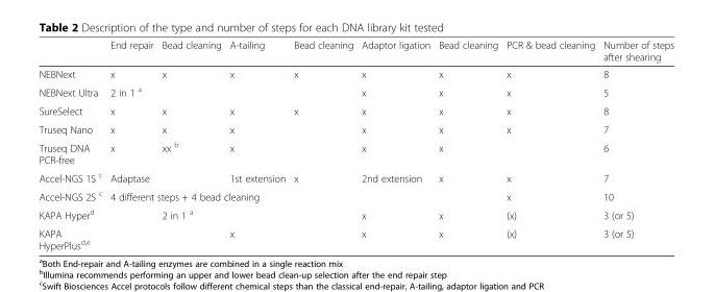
<table><thead><tr><td></td><td>End repair</td><td>Bead cleaning</td><td>A-tailing</td><td>Bead cleaning</td><td>Adaptor ligation</td><td>Bead cleaning</td><td>PCR &amp; bead cleaning</td><td>Number of steps after shearing</td></tr></thead><tbody><tr><td>NEBNext</td><td>x</td><td>x</td><td>x</td><td>x</td><td>x</td><td>x</td><td>x</td><td>8</td></tr><tr><td>NEBNext Ultra</td><td colspan="3">2 in 1 <sup>a</sup></td><td></td><td>x</td><td>x</td><td>x</td><td>5</td></tr><tr><td>SureSelect</td><td>x</td><td>x</td><td>x</td><td>x</td><td>x</td><td>x</td><td>x</td><td>8</td></tr><tr><td>Truseq Nano</td><td>x</td><td>x</td><td>x</td><td></td><td>x</td><td>x</td><td>x</td><td>7</td></tr><tr><td>Truseq DNA PCR-free</td><td>x</td><td>xx <sup>b</sup></td><td>x</td><td></td><td>x</td><td>x</td><td></td><td>6</td></tr><tr><td>Accel-NGS 1S <sup>c</sup></td><td>Adaptase</td><td></td><td>1st extension</td><td>x</td><td>2nd extension</td><td>x</td><td>x</td><td>7</td></tr><tr><td>Accel-NGS 2S <sup>c</sup></td><td colspan="6">4 different steps + 4 bead cleaning</td><td>x</td><td>10</td></tr><tr><td>KAPA Hyper<sup>d</sup></td><td></td><td>2 in 1 <sup>a</sup></td><td></td><td></td><td>x</td><td>x</td><td>(x)</td><td>3 (or 5)</td></tr><tr><td>KAPA HyperPlus<sup>d,e</sup></td><td></td><td></td><td>x</td><td></td><td>x</td><td>x</td><td>(x)</td><td>3 (or 5)</td></tr></tbody></table>